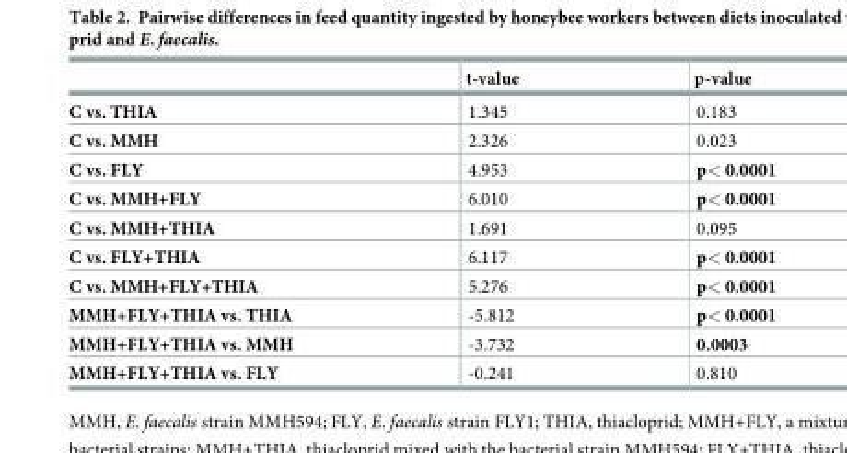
<table><thead><tr><td></td><td>t-value</td><td>p-value</td></tr></thead><tbody><tr><td>C vs. THIA</td><td>1.345</td><td>0.183</td></tr><tr><td>C vs. MMH</td><td>2.326</td><td>0.023</td></tr><tr><td>C vs. FLY</td><td>4.953</td><td>p&lt; 0.0001</td></tr><tr><td>C vs. MMH+FLY</td><td>6.010</td><td>p&lt; 0.0001</td></tr><tr><td>C vs. MMH+THIA</td><td>1.691</td><td>0.095</td></tr><tr><td>C vs. FLY+THIA</td><td>6.117</td><td>p&lt; 0.0001</td></tr><tr><td>C vs. MMH+FLY+THIA</td><td>5.276</td><td>p&lt; 0.0001</td></tr><tr><td>MMH+FLY+THIA vs. THIA</td><td>-5.812</td><td>p&lt; 0.0001</td></tr><tr><td>MMH+FLY+THIA vs. MMH</td><td>-3.732</td><td>0.0003</td></tr><tr><td>MMH+FLY+THIA vs. FLY</td><td>-0.241</td><td>0.810</td></tr></tbody></table>